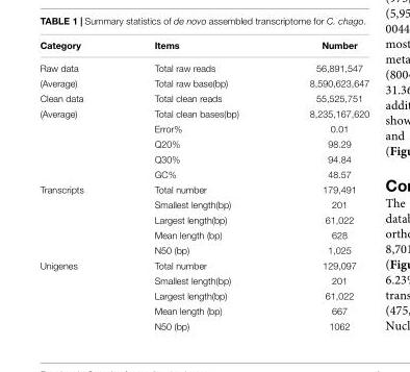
<table><thead><tr><td>Category</td><td>Items</td><td>Number</td></tr></thead><tbody><tr><td>Raw data</td><td>Total raw reads</td><td>56,891,547</td></tr><tr><td>(Average)</td><td>Total raw base(bp)</td><td>8,590,623,647</td></tr><tr><td>Clean data</td><td>Total clean reads</td><td>55,525,751</td></tr><tr><td rowspan="5">(Average)</td><td>Total clean bases(bp)</td><td>8,235,167,620</td></tr><tr><td>Error%</td><td>0.01</td></tr><tr><td>Q20%</td><td>98.29</td></tr><tr><td>Q30%</td><td>94.84</td></tr><tr><td>GC%</td><td>48.57</td></tr><tr><td rowspan="5">Transcripts</td><td>Total number</td><td>179,491</td></tr><tr><td>Smallest length(bp)</td><td>201</td></tr><tr><td>Largest length(bp)</td><td>61,022</td></tr><tr><td>Mean length (bp)</td><td>628</td></tr><tr><td>N50 (bp)</td><td>1,025</td></tr><tr><td rowspan="5">Unigenes</td><td>Total number</td><td>129,097</td></tr><tr><td>Smallest length(bp)</td><td>201</td></tr><tr><td>Largest length(bp)</td><td>61,022</td></tr><tr><td>Mean length (bp)</td><td>667</td></tr><tr><td>N50 (bp)</td><td>1062</td></tr></tbody></table>